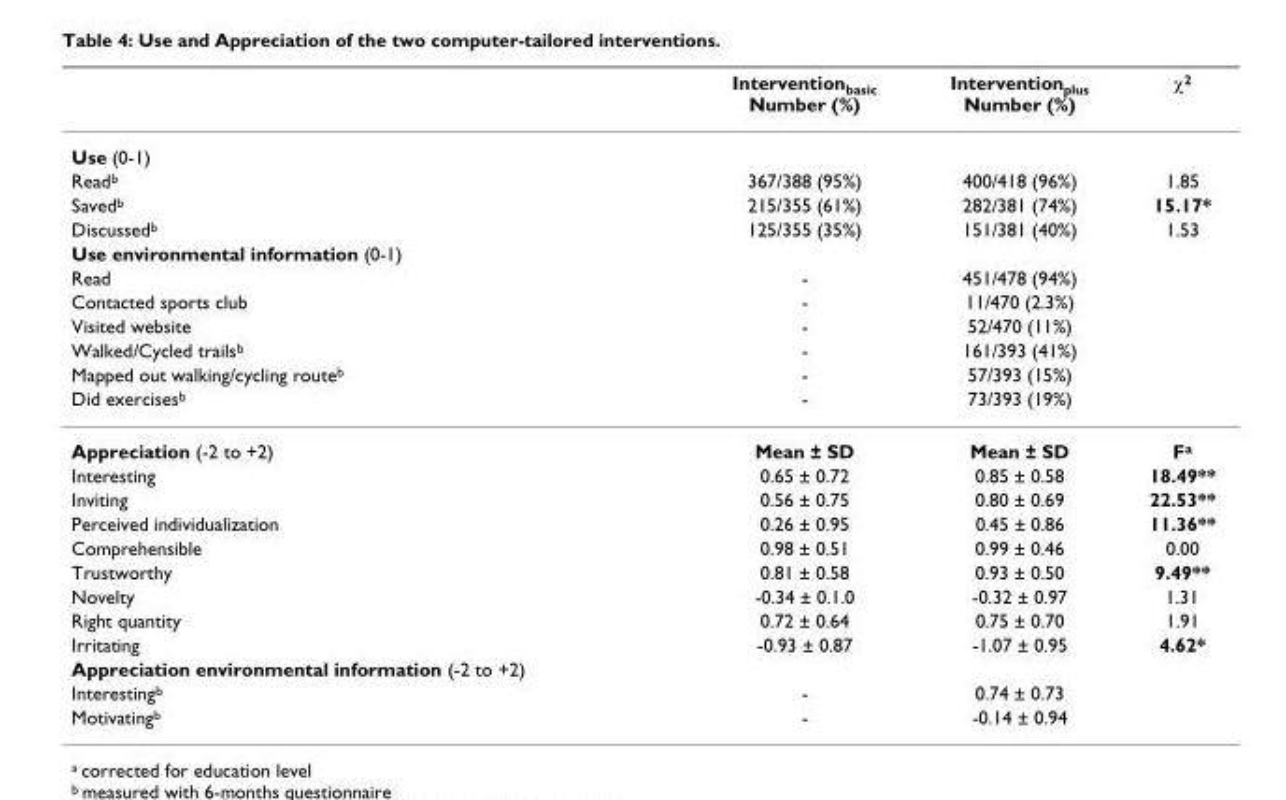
<table><thead><tr><td></td><td>Intervention<sub>basic</sub> Number (%)</td><td>Intervention<sub>plus</sub> Number (%)</td><td>χ<sup>2</sup></td></tr></thead><tbody><tr><td colspan="4">Use (0-1)</td></tr><tr><td>Read<sup>b</sup></td><td>367/388 (95%)</td><td>400/418 (96%)</td><td>1.85</td></tr><tr><td>Saved<sup>b</sup></td><td>215/355 (61%)</td><td>282/381 (74%)</td><td>15.17*</td></tr><tr><td>Discussed<sup>b</sup></td><td>125/355 (35%)</td><td>151/381 (40%)</td><td>1.53</td></tr><tr><td colspan="4">Use environmental information (0-1)</td></tr><tr><td>Read</td><td>-</td><td>451/478 (94%)</td><td></td></tr><tr><td>Contacted sports club</td><td>-</td><td>11/470 (2.3%)</td><td></td></tr><tr><td>Visited website</td><td>-</td><td>52/470 (11%)</td><td></td></tr><tr><td>Walked/Cycled trails<sup>b</sup></td><td>-</td><td>161/393 (41%)</td><td></td></tr><tr><td>Mapped out walking/cycling route<sup>b</sup></td><td>-</td><td>57/393 (15%)</td><td></td></tr><tr><td>Did exercises<sup>b</sup></td><td>-</td><td>73/393 (19%)</td><td></td></tr><tr><td>Appreciation (-2 to +2)</td><td>Mean ± SD</td><td>Mean ± SD</td><td>F<sup>a</sup></td></tr><tr><td>Interesting</td><td>0.65 ± 0.72</td><td>0.85 ± 0.58</td><td>18.49**</td></tr><tr><td>Inviting</td><td>0.56 ± 0.75</td><td>0.80 ± 0.69</td><td>22.53**</td></tr><tr><td>Perceived individualization</td><td>0.26 ± 0.95</td><td>0.45 ± 0.86</td><td>11.36**</td></tr><tr><td>Comprehensible</td><td>0.98 ± 0.51</td><td>0.99 ± 0.46</td><td>0.00</td></tr><tr><td>Trustworthy</td><td>0.81 ± 0.58</td><td>0.93 ± 0.50</td><td>9.49**</td></tr><tr><td>Novelty</td><td>-0.34 ± 0.1.0</td><td>-0.32 ± 0.97</td><td>1.31</td></tr><tr><td>Right quantity</td><td>0.72 ± 0.64</td><td>0.75 ± 0.70</td><td>1.91</td></tr><tr><td>Irritating</td><td>-0.93 ± 0.87</td><td>-1.07 ± 0.95</td><td>4.62*</td></tr><tr><td colspan="4">Appreciation environmental information (-2 to +2)</td></tr><tr><td>Interesting<sup>b</sup></td><td>-</td><td>0.74 ± 0.73</td><td></td></tr><tr><td>Motivating<sup>b</sup></td><td>-</td><td>-0.14 ± 0.94</td><td></td></tr></tbody></table>